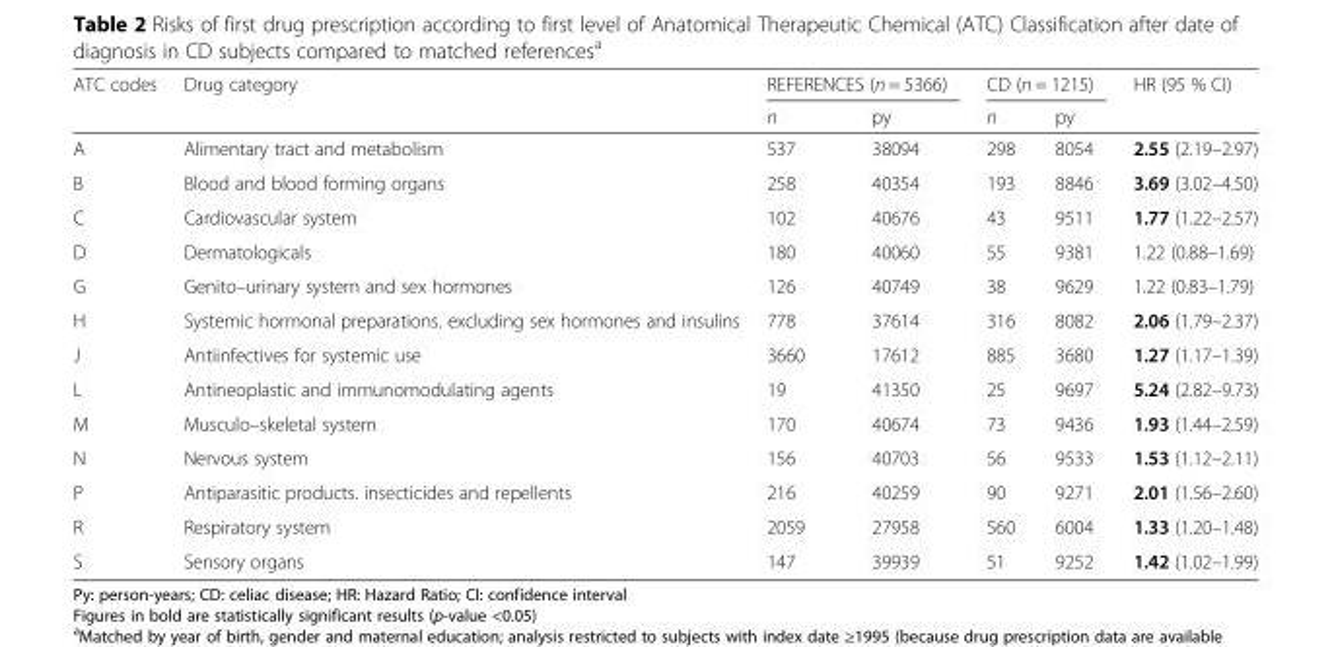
<table><thead><tr><td rowspan="2">ATC codes</td><td rowspan="2">Drug category</td><td colspan="2">REFERENCES (n = 5366)</td><td colspan="2">CD (n = 1215)</td><td rowspan="2">HR (95 % CI)</td></tr><tr><td>n</td><td>py</td><td>n</td><td>py</td></tr></thead><tbody><tr><td>A</td><td>Alimentary tract and metabolism</td><td>537</td><td>38094</td><td>298</td><td>8054</td><td>2.55 (2.19–2.97)</td></tr><tr><td>B</td><td>Blood and blood forming organs</td><td>258</td><td>40354</td><td>193</td><td>8846</td><td>3.69 (3.02–4.50)</td></tr><tr><td>C</td><td>Cardiovascular system</td><td>102</td><td>40676</td><td>43</td><td>9511</td><td>1.77 (1.22–2.57)</td></tr><tr><td>D</td><td>Dermatologicals</td><td>180</td><td>40060</td><td>55</td><td>9381</td><td>1.22 (0.88–1.69)</td></tr><tr><td>G</td><td>Genito–urinary system and sex hormones</td><td>126</td><td>40749</td><td>38</td><td>9629</td><td>1.22 (0.83–1.79)</td></tr><tr><td>H</td><td>Systemic hormonal preparations. excluding sex hormones and insulins</td><td>778</td><td>37614</td><td>316</td><td>8082</td><td>2.06 (1.79–2.37)</td></tr><tr><td>J</td><td>Antiinfectives for systemic use</td><td>3660</td><td>17612</td><td>885</td><td>3680</td><td>1.27 (1.17–1.39)</td></tr><tr><td>L</td><td>Antineoplastic and immunomodulating agents</td><td>19</td><td>41350</td><td>25</td><td>9697</td><td>5.24 (2.82–9.73)</td></tr><tr><td>M</td><td>Musculo–skeletal system</td><td>170</td><td>40674</td><td>73</td><td>9436</td><td>1.93 (1.44–2.59)</td></tr><tr><td>N</td><td>Nervous system</td><td>156</td><td>40703</td><td>56</td><td>9533</td><td>1.53 (1.12–2.11)</td></tr><tr><td>P</td><td>Antiparasitic products. insecticides and repellents</td><td>216</td><td>40259</td><td>90</td><td>9271</td><td>2.01 (1.56–2.60)</td></tr><tr><td>R</td><td>Respiratory system</td><td>2059</td><td>27958</td><td>560</td><td>6004</td><td>1.33 (1.20–1.48)</td></tr><tr><td>S</td><td>Sensory organs</td><td>147</td><td>39939</td><td>51</td><td>9252</td><td>1.42 (1.02–1.99)</td></tr></tbody></table>